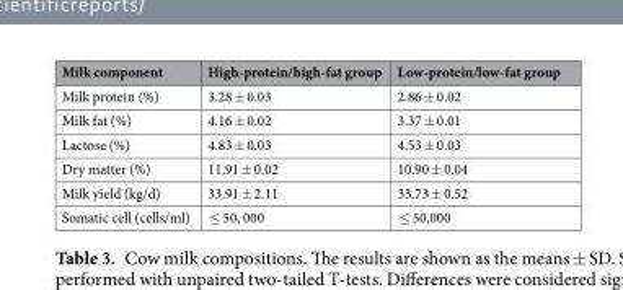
<table><thead><tr><td>Milk component</td><td>High-protein/high-fat group</td><td>Low-protein/low-fat group</td></tr></thead><tbody><tr><td>Milk protein (%)</td><td>3.28 ± 0.03</td><td>2.86 ± 0.02</td></tr><tr><td>Milk fat (%)</td><td>4.16 ± 0.02</td><td>3.37 ± 0.01</td></tr><tr><td>Lactose (%)</td><td>4.83 ± 0.03</td><td>4.53 ± 0.03</td></tr><tr><td>Dry matter (%)</td><td>11.91 ± 0.02</td><td>10.90 ± 0.04</td></tr><tr><td>Milk yield (kg/d)</td><td>33.91 ± 2.11</td><td>33.73 ± 0.52</td></tr><tr><td>Somatic cell (cells/ml)</td><td>≤ 50, 000</td><td>≤ 50,000</td></tr></tbody></table>